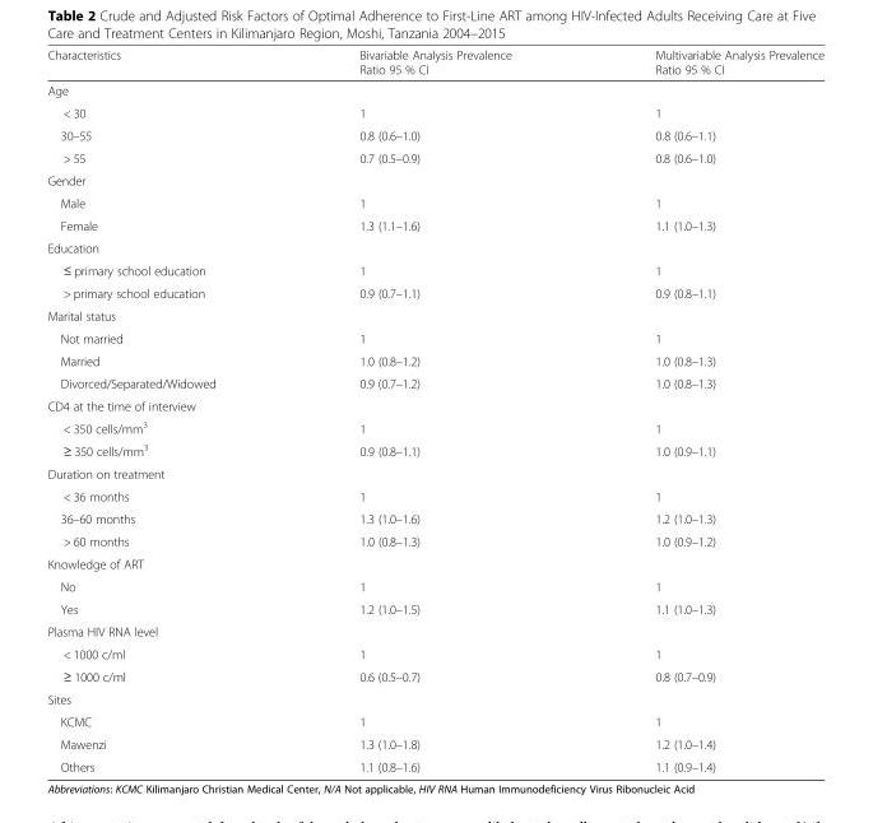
<table><thead><tr><td>Characteristics</td><td>Bivariable Analysis Prevalence Ratio 95 % CI</td><td>Multivariable Analysis Prevalence Ratio 95 % CI</td></tr></thead><tbody><tr><td colspan="3">Age</td></tr><tr><td>&lt; 30</td><td>1</td><td>1</td></tr><tr><td>30–55</td><td>0.8 (0.6–1.0)</td><td>0.8 (0.6–1.1)</td></tr><tr><td>&gt; 55</td><td>0.7 (0.5–0.9)</td><td>0.8 (0.6–1.0)</td></tr><tr><td colspan="3">Gender</td></tr><tr><td>Male</td><td>1</td><td>1</td></tr><tr><td>Female</td><td>1.3 (1.1–1.6)</td><td>1.1 (1.0–1.3)</td></tr><tr><td colspan="3">Education</td></tr><tr><td>≤ primary school education</td><td>1</td><td>1</td></tr><tr><td>&gt; primary school education</td><td>0.9 (0.7–1.1)</td><td>0.9 (0.8–1.1)</td></tr><tr><td colspan="3">Marital status</td></tr><tr><td>Not married</td><td>1</td><td>1</td></tr><tr><td>Married</td><td>1.0 (0.8–1.2)</td><td>1.0 (0.8–1.3)</td></tr><tr><td>Divorced/Separated/Widowed</td><td>0.9 (0.7–1.2)</td><td>1.0 (0.8–1.3)</td></tr><tr><td colspan="3">CD4 at the time of interview</td></tr><tr><td>&lt; 350 cells/mm<sup>3</sup></td><td>1</td><td>1</td></tr><tr><td>≥ 350 cells/mm<sup>3</sup></td><td>0.9 (0.8–1.1)</td><td>1.0 (0.9–1.1)</td></tr><tr><td colspan="3">Duration on treatment</td></tr><tr><td>&lt; 36 months</td><td>1</td><td>1</td></tr><tr><td>36–60 months</td><td>1.3 (1.0–1.6)</td><td>1.2 (1.0–1.3)</td></tr><tr><td>&gt; 60 months</td><td>1.0 (0.8–1.3)</td><td>1.0 (0.9–1.2)</td></tr><tr><td colspan="3">Knowledge of ART</td></tr><tr><td>No</td><td>1</td><td>1</td></tr><tr><td>Yes</td><td>1.2 (1.0–1.5)</td><td>1.1 (1.0–1.3)</td></tr><tr><td colspan="3">Plasma HIV RNA level</td></tr><tr><td>&lt; 1000 c/ml</td><td>1</td><td>1</td></tr><tr><td>≥ 1000 c/ml</td><td>0.6 (0.5–0.7)</td><td>0.8 (0.7–0.9)</td></tr><tr><td colspan="3">Sites</td></tr><tr><td>KCMC</td><td>1</td><td>1</td></tr><tr><td>Mawenzi</td><td>1.3 (1.0–1.8)</td><td>1.2 (1.0–1.4)</td></tr><tr><td>Others</td><td>1.1 (0.8–1.6)</td><td>1.1 (0.9–1.4)</td></tr></tbody></table>